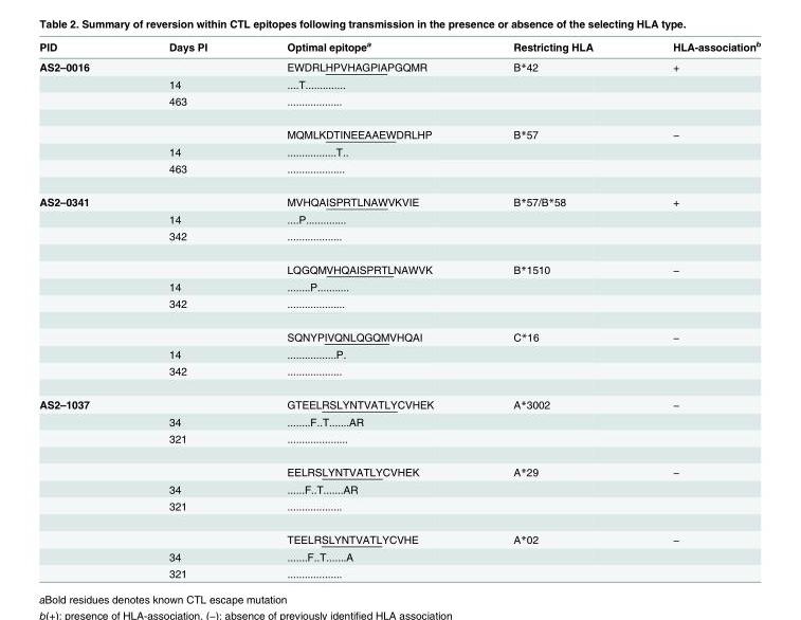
<table><thead><tr><td>PID</td><td>Days PI</td><td>Optimal epitope<sup>a</sup></td><td>Restricting HLA</td><td>HLA-association<sup>b</sup></td></tr></thead><tbody><tr><td rowspan="6">AS2–0016</td><td></td><td>EWDRLHPVHAGPIAPGQMR</td><td>B*42</td><td>+</td></tr><tr><td>14</td><td>....T..............</td><td></td><td></td></tr><tr><td>463</td><td>...................</td><td></td><td></td></tr><tr><td></td><td>MQMLKDTINEEAAEWDRLHP</td><td>B*57</td><td>−</td></tr><tr><td>14</td><td>.................T..</td><td></td><td></td></tr><tr><td>463</td><td>....................</td><td></td><td></td></tr><tr><td rowspan="9">AS2–0341</td><td></td><td>MVHQAISPRTLNAWVKVIE</td><td>B*57/B*58</td><td>+</td></tr><tr><td>14</td><td>....P..............</td><td></td><td></td></tr><tr><td>342</td><td>...................</td><td></td><td></td></tr><tr><td></td><td>LQGQMVHQAISPRTLNAWVK</td><td>B*1510</td><td>−</td></tr><tr><td>14</td><td>........P...........</td><td></td><td></td></tr><tr><td>342</td><td>....................</td><td></td><td></td></tr><tr><td></td><td>SQNYPIVQNLQGQMVHQAI</td><td>C*16</td><td>−</td></tr><tr><td>14</td><td>.................P.</td><td></td><td></td></tr><tr><td>342</td><td>...................</td><td></td><td></td></tr><tr><td rowspan="9">AS2–1037</td><td></td><td>GTEELRSLYNTVATLYCVHEK</td><td>A*3002</td><td>−</td></tr><tr><td>34</td><td>........F..T.......AR</td><td></td><td></td></tr><tr><td>321</td><td>.....................</td><td></td><td></td></tr><tr><td></td><td>EELRSLYNTVATLYCVHEK</td><td>A*29</td><td>−</td></tr><tr><td>34</td><td>......F..T.......AR</td><td></td><td></td></tr><tr><td>321</td><td>...................</td><td></td><td></td></tr><tr><td></td><td>TEELRSLYNTVATLYCVHE</td><td>A*02</td><td>−</td></tr><tr><td>34</td><td>.......F..T.......A</td><td></td><td></td></tr><tr><td>321</td><td>...................</td><td></td><td></td></tr></tbody></table>